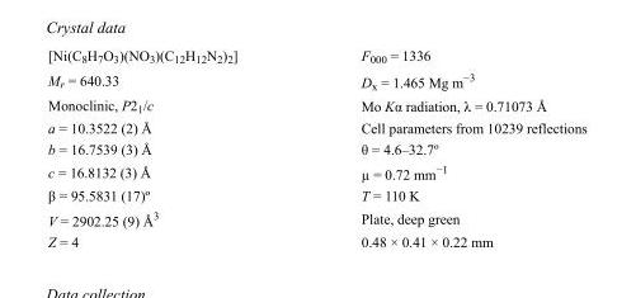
<table><tbody><tr><td>[Ni(C<sub>8</sub>H<sub>7</sub>O<sub>3</sub>)(NO<sub>3</sub>)(C<sub>12</sub>H<sub>12</sub>N<sub>2</sub>)<sub>2</sub>]</td><td>F000 = 1336</td></tr><tr><td>M<sub>r</sub> = 640.33</td><td>D<sub>x</sub> = 1.465 Mg m<sup>−3</sup></td></tr><tr><td>Monoclinic, P2<sub>1</sub>/c</td><td>Mo Kα radiation, λ = 0.71073 Å</td></tr><tr><td>a = 10.3522 (2) Å</td><td>Cell parameters from 10239 reflections</td></tr><tr><td>b = 16.7539 (3) Å</td><td>θ = 4.6–32.7º</td></tr><tr><td>c = 16.8132 (3) Å</td><td>µ = 0.72 mm<sup>−1</sup></td></tr><tr><td>β = 95.5831 (17)º</td><td>T = 110 K</td></tr><tr><td>V = 2902.25 (9) Å<sup>3</sup></td><td>Plate, deep green</td></tr><tr><td>Z = 4</td><td>0.48 × 0.41 × 0.22 mm</td></tr></tbody></table>